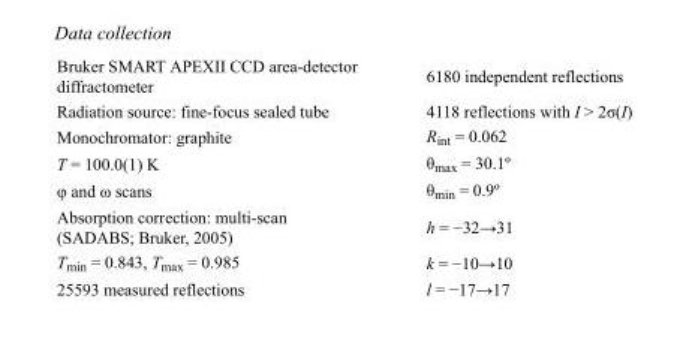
<table><tbody><tr><td>Bruker SMART APEXII CCD area-detector diffractometer</td><td>6180 independent reflections</td></tr><tr><td>Radiation source: fine-focus sealed tube</td><td>4118 reflections with I &gt; 2σ(I)</td></tr><tr><td>Monochromator: graphite</td><td>R<sub>int</sub> = 0.062</td></tr><tr><td>T = 100.0(1) K</td><td>θ<sub>max</sub> = 30.1º</td></tr><tr><td>φ and ω scans</td><td>θ<sub>min</sub> = 0.9º</td></tr><tr><td>Absorption correction: multi-scan (SADABS; Bruker, 2005)</td><td>h = −32→31</td></tr><tr><td>T<sub>min</sub> = 0.843, T<sub>max</sub> = 0.985</td><td>k = −10→10</td></tr><tr><td>25593 measured reflections</td><td>l = −17→17</td></tr></tbody></table>